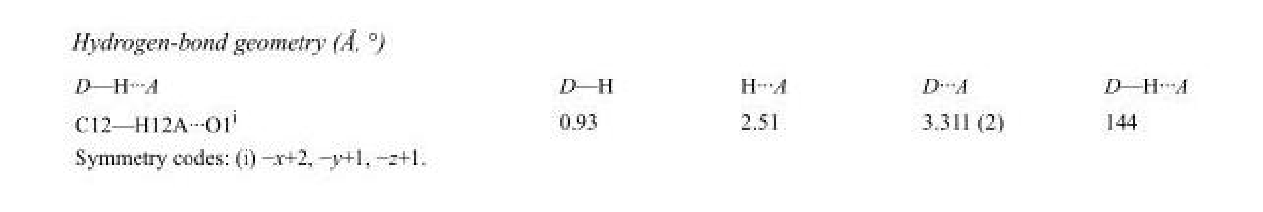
<table><tbody><tr><td>D—H···A</td><td>D—H</td><td>H···A</td><td>D···A</td><td>D—H···A</td></tr><tr><td>C12—H12A···O1<sup>i</sup></td><td>0.93</td><td>2.51</td><td>3.311 (2)</td><td>144</td></tr></tbody></table>